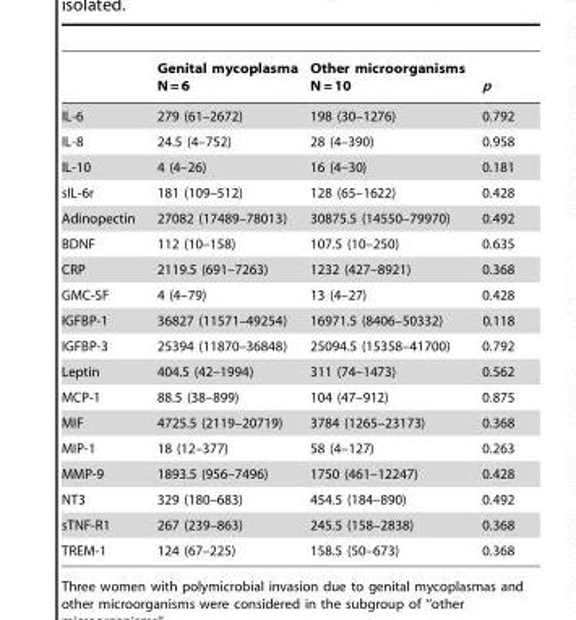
<table><thead><tr><td></td><td>Genital mycoplasma N = 6</td><td>Other microorganisms N = 10</td><td>p</td></tr></thead><tbody><tr><td>IL-6</td><td>279 (61–2672)</td><td>198 (30–1276)</td><td>0.792</td></tr><tr><td>IL-8</td><td>24.5 (4–752)</td><td>28 (4–390)</td><td>0.958</td></tr><tr><td>IL-10</td><td>4 (4–26)</td><td>16 (4–30)</td><td>0.181</td></tr><tr><td>sIL-6r</td><td>181 (109–512)</td><td>128 (65–1622)</td><td>0.428</td></tr><tr><td>Adinopectin</td><td>27082 (17489–78013)</td><td>30875.5 (14550–79970)</td><td>0.492</td></tr><tr><td>BDNF</td><td>112 (10–158)</td><td>107.5 (10–250)</td><td>0.635</td></tr><tr><td>CRP</td><td>2119.5 (691–7263)</td><td>1232 (427–8921)</td><td>0.368</td></tr><tr><td>GMC-SF</td><td>4 (4–79)</td><td>13 (4–27)</td><td>0.428</td></tr><tr><td>IGFBP-1</td><td>36827 (11571–49254)</td><td>16971.5 (8406–50332)</td><td>0.118</td></tr><tr><td>IGFBP-3</td><td>25394 (11870–36848)</td><td>25094.5 (15358–41700)</td><td>0.792</td></tr><tr><td>Leptin</td><td>404.5 (42–1994)</td><td>311 (74–1473)</td><td>0.562</td></tr><tr><td>MCP-1</td><td>88.5 (38–899)</td><td>104 (47–912)</td><td>0.875</td></tr><tr><td>MIF</td><td>4725.5 (2119–20719)</td><td>3784 (1265–23173)</td><td>0.368</td></tr><tr><td>MIP-1</td><td>18 (12–377)</td><td>58 (4–127)</td><td>0.263</td></tr><tr><td>MMP-9</td><td>1893.5 (956–7496)</td><td>1750 (461–12247)</td><td>0.428</td></tr><tr><td>NT3</td><td>329 (180–683)</td><td>454.5 (184–890)</td><td>0.492</td></tr><tr><td>sTNF-R1</td><td>267 (239–863)</td><td>245.5 (158–2838)</td><td>0.368</td></tr><tr><td>TREM-1</td><td>124 (67–225)</td><td>158.5 (50–673)</td><td>0.368</td></tr></tbody></table>